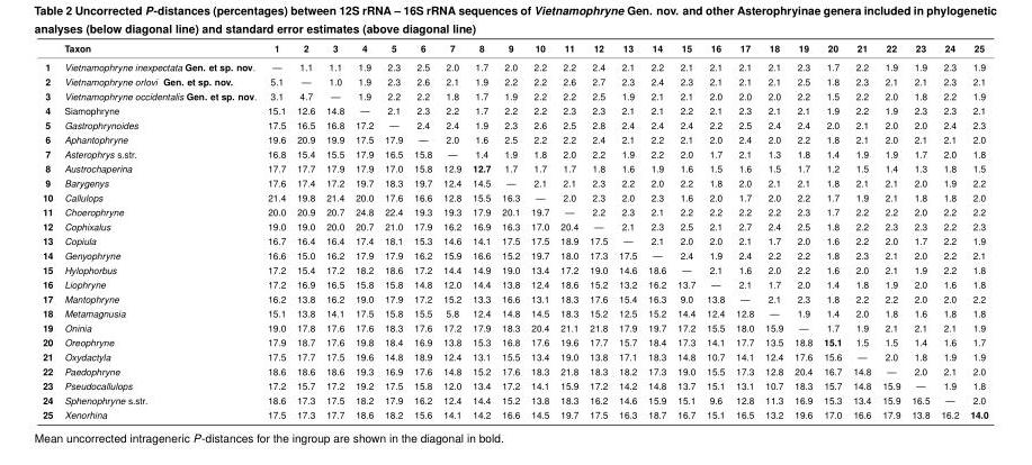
<table><thead><tr><td></td><td>Taxon</td><td>1</td><td>2</td><td>3</td><td>4</td><td>5</td><td>6</td><td>7</td><td>8</td><td>9</td><td>10</td><td>11</td><td>12</td><td>13</td><td>14</td><td>15</td><td>16</td><td>17</td><td>18</td><td>19</td><td>20</td><td>21</td><td>22</td><td>23</td><td>24</td><td>25</td></tr></thead><tbody><tr><td>1</td><td>Vietnamophryne inexpectata Gen. et sp. nov.</td><td>—</td><td>1.1</td><td>1.1</td><td>1.9</td><td>2.3</td><td>2.5</td><td>2.0</td><td>1.7</td><td>2.0</td><td>2.2</td><td>2.2</td><td>2.4</td><td>2.1</td><td>2.2</td><td>2.1</td><td>2.1</td><td>2.1</td><td>2.1</td><td>2.3</td><td>1.7</td><td>2.2</td><td>1.9</td><td>1.9</td><td>2.3</td><td>1.9</td></tr><tr><td>2</td><td>Vietnamophryne orlovi Gen. et sp. nov.</td><td>5.1</td><td>—</td><td>1.0</td><td>1.9</td><td>2.3</td><td>2.6</td><td>2.1</td><td>1.9</td><td>2.2</td><td>2.2</td><td>2.6</td><td>2.7</td><td>2.3</td><td>2.4</td><td>2.3</td><td>2.1</td><td>2.1</td><td>2.1</td><td>2.5</td><td>1.8</td><td>2.3</td><td>2.1</td><td>2.1</td><td>2.3</td><td>2.1</td></tr><tr><td>3</td><td>Vietnamophryne occidentalis Gen. et sp. nov.</td><td>3.1</td><td>4.7</td><td>—</td><td>1.9</td><td>2.2</td><td>2.2</td><td>1.8</td><td>1.7</td><td>1.9</td><td>2.2</td><td>2.2</td><td>2.5</td><td>1.9</td><td>2.1</td><td>2.1</td><td>2.0</td><td>2.0</td><td>2.0</td><td>2.2</td><td>1.5</td><td>2.2</td><td>2.0</td><td>1.8</td><td>2.2</td><td>1.9</td></tr><tr><td>4</td><td>Siamophryne</td><td>15.1</td><td>12.6</td><td>14.8</td><td>—</td><td>2.1</td><td>2.3</td><td>2.2</td><td>1.7</td><td>2.2</td><td>2.2</td><td>2.3</td><td>2.3</td><td>2.1</td><td>2.1</td><td>2.2</td><td>2.1</td><td>2.3</td><td>2.1</td><td>2.1</td><td>1.9</td><td>2.2</td><td>1.9</td><td>2.3</td><td>2.3</td><td>2.1</td></tr><tr><td>5</td><td>Gastrophrynoides</td><td>17.5</td><td>16.5</td><td>16.8</td><td>17.2</td><td>—</td><td>2.4</td><td>2.4</td><td>1.9</td><td>2.3</td><td>2.6</td><td>2.5</td><td>2.8</td><td>2.4</td><td>2.4</td><td>2.4</td><td>2.2</td><td>2.5</td><td>2.4</td><td>2.4</td><td>2.0</td><td>2.1</td><td>2.0</td><td>2.0</td><td>2.4</td><td>2.3</td></tr><tr><td>6</td><td>Aphantophryne</td><td>19.6</td><td>20.9</td><td>19.9</td><td>17.5</td><td>17.9</td><td>—</td><td>2.0</td><td>1.6</td><td>2.5</td><td>2.2</td><td>2.2</td><td>2.4</td><td>2.1</td><td>2.2</td><td>2.1</td><td>2.0</td><td>2.4</td><td>2.0</td><td>2.2</td><td>1.8</td><td>2.1</td><td>2.0</td><td>2.1</td><td>2.1</td><td>2.0</td></tr><tr><td>7</td><td>Asterophrys s.str.</td><td>16.8</td><td>15.4</td><td>15.5</td><td>17.9</td><td>16.5</td><td>15.8</td><td>—</td><td>1.4</td><td>1.9</td><td>1.8</td><td>2.0</td><td>2.2</td><td>1.9</td><td>2.2</td><td>2.0</td><td>1.7</td><td>2.1</td><td>1.3</td><td>1.8</td><td>1.4</td><td>1.9</td><td>1.9</td><td>1.7</td><td>2.0</td><td>1.8</td></tr><tr><td>8</td><td>Austrochaperina</td><td>17.7</td><td>17.7</td><td>17.9</td><td>17.9</td><td>17.0</td><td>15.8</td><td>12.9</td><td>12.7</td><td>1.7</td><td>1.7</td><td>1.7</td><td>1.8</td><td>1.6</td><td>1.9</td><td>1.6</td><td>1.5</td><td>1.6</td><td>1.5</td><td>1.7</td><td>1.2</td><td>1.5</td><td>1.4</td><td>1.3</td><td>1.8</td><td>1.5</td></tr><tr><td>9</td><td>Barygenys</td><td>17.6</td><td>17.4</td><td>17.2</td><td>19.7</td><td>18.3</td><td>19.7</td><td>12.4</td><td>14.5</td><td>—</td><td>2.1</td><td>2.1</td><td>2.3</td><td>2.2</td><td>2.0</td><td>2.2</td><td>1.8</td><td>2.0</td><td>2.1</td><td>2.1</td><td>1.8</td><td>2.1</td><td>2.1</td><td>2.0</td><td>1.9</td><td>2.2</td></tr><tr><td>10</td><td>Callulops</td><td>21.4</td><td>19.8</td><td>21.4</td><td>20.0</td><td>17.6</td><td>16.6</td><td>12.8</td><td>15.5</td><td>16.3</td><td>—</td><td>2.0</td><td>2.3</td><td>2.0</td><td>2.3</td><td>1.6</td><td>2.0</td><td>1.7</td><td>2.0</td><td>2.2</td><td>1.7</td><td>1.9</td><td>2.1</td><td>1.8</td><td>1.8</td><td>2.0</td></tr><tr><td>11</td><td>Choerophryne</td><td>20.0</td><td>20.9</td><td>20.7</td><td>24.8</td><td>22.4</td><td>19.3</td><td>19.3</td><td>17.9</td><td>20.1</td><td>19.7</td><td>—</td><td>2.2</td><td>2.3</td><td>2.1</td><td>2.2</td><td>2.2</td><td>2.2</td><td>2.2</td><td>2.3</td><td>1.7</td><td>2.2</td><td>2.2</td><td>2.0</td><td>2.2</td><td>2.2</td></tr><tr><td>12</td><td>Cophixalus</td><td>19.0</td><td>19.0</td><td>20.0</td><td>20.7</td><td>21.0</td><td>17.9</td><td>16.2</td><td>16.9</td><td>16.3</td><td>17.0</td><td>20.4</td><td>—</td><td>2.1</td><td>2.3</td><td>2.5</td><td>2.1</td><td>2.7</td><td>2.4</td><td>2.5</td><td>1.8</td><td>2.2</td><td>2.3</td><td>2.3</td><td>2.2</td><td>2.3</td></tr><tr><td>13</td><td>Copiula</td><td>16.7</td><td>16.4</td><td>16.4</td><td>17.4</td><td>18.1</td><td>15.3</td><td>14.6</td><td>14.1</td><td>17.5</td><td>17.5</td><td>18.9</td><td>17.5</td><td>—</td><td>2.1</td><td>2.0</td><td>2.0</td><td>2.1</td><td>1.7</td><td>2.0</td><td>1.6</td><td>2.2</td><td>2.0</td><td>1.7</td><td>2.2</td><td>1.9</td></tr><tr><td>14</td><td>Genyophryne</td><td>16.6</td><td>15.0</td><td>16.2</td><td>17.9</td><td>17.9</td><td>16.2</td><td>15.9</td><td>16.6</td><td>15.2</td><td>19.7</td><td>18.0</td><td>17.3</td><td>17.5</td><td>—</td><td>2.4</td><td>1.9</td><td>2.4</td><td>2.2</td><td>2.2</td><td>1.8</td><td>2.3</td><td>2.1</td><td>2.0</td><td>2.2</td><td>2.1</td></tr><tr><td>15</td><td>Hylophorbus</td><td>17.2</td><td>15.4</td><td>17.2</td><td>18.2</td><td>18.6</td><td>17.2</td><td>14.4</td><td>14.9</td><td>19.0</td><td>13.4</td><td>17.2</td><td>19.0</td><td>14.6</td><td>18.6</td><td>—</td><td>2.1</td><td>1.6</td><td>2.0</td><td>2.2</td><td>1.6</td><td>2.0</td><td>2.1</td><td>1.9</td><td>2.2</td><td>1.8</td></tr><tr><td>16</td><td>Liophryne</td><td>17.2</td><td>16.9</td><td>16.5</td><td>15.8</td><td>15.8</td><td>14.8</td><td>12.0</td><td>14.4</td><td>13.8</td><td>12.4</td><td>18.6</td><td>15.2</td><td>13.2</td><td>16.2</td><td>13.7</td><td>—</td><td>2.1</td><td>1.7</td><td>2.0</td><td>1.4</td><td>1.8</td><td>1.9</td><td>2.0</td><td>1.6</td><td>1.8</td></tr><tr><td>17</td><td>Mantophryne</td><td>16.2</td><td>13.8</td><td>16.2</td><td>19.0</td><td>17.9</td><td>17.2</td><td>15.2</td><td>13.3</td><td>16.6</td><td>13.1</td><td>18.3</td><td>17.6</td><td>15.4</td><td>16.3</td><td>9.0</td><td>13.8</td><td>—</td><td>2.1</td><td>2.3</td><td>1.8</td><td>2.2</td><td>2.2</td><td>2.0</td><td>2.0</td><td>2.2</td></tr><tr><td>18</td><td>Metamagnusia</td><td>15.1</td><td>13.8</td><td>14.1</td><td>17.5</td><td>15.8</td><td>15.5</td><td>5.8</td><td>12.4</td><td>14.8</td><td>14.5</td><td>18.3</td><td>15.2</td><td>12.5</td><td>15.2</td><td>14.4</td><td>12.4</td><td>12.8</td><td>—</td><td>1.9</td><td>1.4</td><td>2.0</td><td>1.8</td><td>1.6</td><td>1.8</td><td>1.8</td></tr><tr><td>19</td><td>Oninia</td><td>19.0</td><td>17.8</td><td>17.6</td><td>17.6</td><td>18.3</td><td>17.6</td><td>17.2</td><td>17.9</td><td>18.3</td><td>20.4</td><td>21.1</td><td>21.8</td><td>17.9</td><td>19.7</td><td>17.2</td><td>15.5</td><td>18.0</td><td>15.9</td><td>—</td><td>1.7</td><td>1.9</td><td>2.1</td><td>2.1</td><td>2.1</td><td>1.9</td></tr><tr><td>20</td><td>Oreophryne</td><td>17.9</td><td>18.7</td><td>17.6</td><td>19.8</td><td>18.4</td><td>16.9</td><td>13.8</td><td>15.3</td><td>16.8</td><td>17.6</td><td>19.6</td><td>17.7</td><td>15.7</td><td>18.4</td><td>17.3</td><td>14.1</td><td>17.7</td><td>13.5</td><td>18.8</td><td>15.1</td><td>1.5</td><td>1.5</td><td>1.4</td><td>1.6</td><td>1.7</td></tr><tr><td>21</td><td>Oxydactyla</td><td>17.5</td><td>17.7</td><td>17.5</td><td>19.6</td><td>14.8</td><td>18.9</td><td>12.4</td><td>13.1</td><td>15.5</td><td>13.4</td><td>19.0</td><td>13.8</td><td>17.1</td><td>18.3</td><td>14.8</td><td>10.7</td><td>14.1</td><td>12.4</td><td>17.6</td><td>15.6</td><td>—</td><td>2.0</td><td>1.8</td><td>1.9</td><td>1.9</td></tr><tr><td>22</td><td>Paedophryne</td><td>18.6</td><td>18.6</td><td>18.6</td><td>19.3</td><td>16.9</td><td>17.6</td><td>14.8</td><td>15.2</td><td>17.6</td><td>18.3</td><td>21.8</td><td>18.3</td><td>18.2</td><td>17.3</td><td>19.0</td><td>15.5</td><td>17.3</td><td>12.8</td><td>20.4</td><td>16.7</td><td>14.8</td><td>—</td><td>2.0</td><td>2.1</td><td>2.0</td></tr><tr><td>23</td><td>Pseudocallulops</td><td>17.2</td><td>15.7</td><td>17.2</td><td>19.2</td><td>17.5</td><td>15.8</td><td>12.0</td><td>13.4</td><td>17.2</td><td>14.1</td><td>15.9</td><td>17.2</td><td>14.2</td><td>14.8</td><td>13.7</td><td>15.1</td><td>13.1</td><td>10.7</td><td>18.3</td><td>15.7</td><td>14.8</td><td>15.9</td><td>—</td><td>1.9</td><td>1.8</td></tr><tr><td>24</td><td>Sphenophryne s.str.</td><td>18.6</td><td>17.3</td><td>17.5</td><td>18.2</td><td>17.9</td><td>16.2</td><td>12.4</td><td>14.4</td><td>15.2</td><td>13.8</td><td>18.3</td><td>16.2</td><td>14.6</td><td>15.9</td><td>15.1</td><td>9.6</td><td>12.8</td><td>11.3</td><td>16.9</td><td>15.3</td><td>13.4</td><td>15.9</td><td>16.5</td><td>—</td><td>2.0</td></tr><tr><td>25</td><td>Xenorhina</td><td>17.5</td><td>17.3</td><td>17.7</td><td>18.6</td><td>18.2</td><td>15.6</td><td>14.1</td><td>14.2</td><td>16.6</td><td>14.5</td><td>19.7</td><td>17.5</td><td>16.3</td><td>18.7</td><td>16.7</td><td>15.1</td><td>16.5</td><td>13.2</td><td>19.6</td><td>17.0</td><td>16.6</td><td>17.9</td><td>13.8</td><td>16.2</td><td>14.0</td></tr></tbody></table>